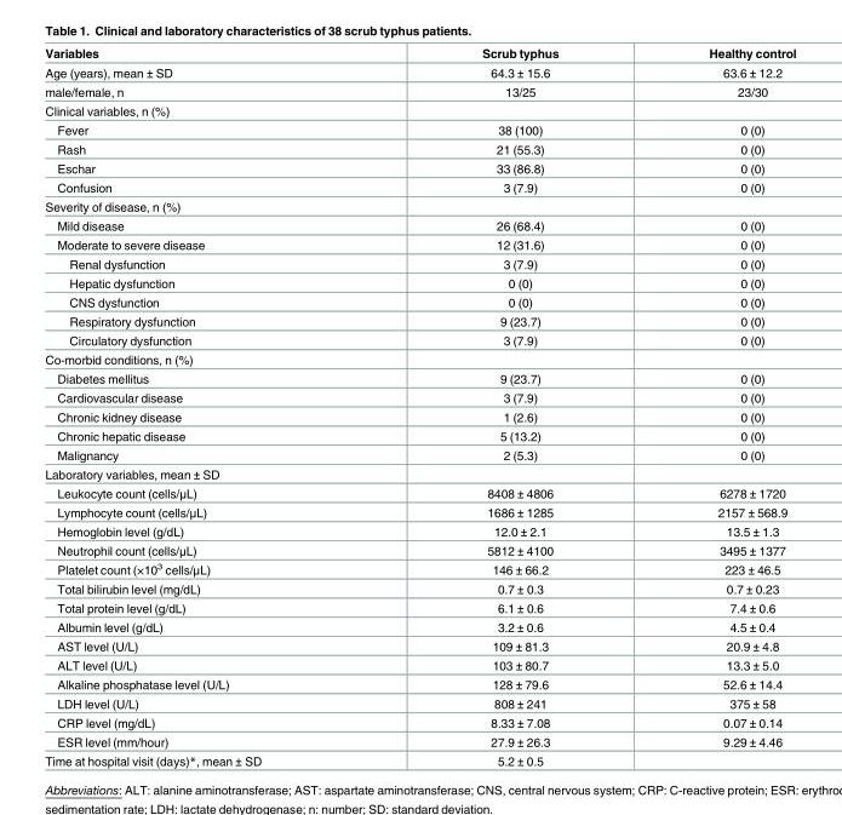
<table><thead><tr><td>Variables</td><td>Scrub typhus</td><td>Healthy control</td></tr></thead><tbody><tr><td>Age (years), mean ± SD</td><td>64.3 ± 15.6</td><td>63.6 ± 12.2</td></tr><tr><td>male/female, n</td><td>13/25</td><td>23/30</td></tr><tr><td colspan="3">Clinical variables, n (%)</td></tr><tr><td>Fever</td><td>38 (100)</td><td>0 (0)</td></tr><tr><td>Rash</td><td>21 (55.3)</td><td>0 (0)</td></tr><tr><td>Eschar</td><td>33 (86.8)</td><td>0 (0)</td></tr><tr><td>Confusion</td><td>3 (7.9)</td><td>0 (0)</td></tr><tr><td colspan="3">Severity of disease, n (%)</td></tr><tr><td>Mild disease</td><td>26 (68.4)</td><td>0 (0)</td></tr><tr><td>Moderate to severe disease</td><td>12 (31.6)</td><td>0 (0)</td></tr><tr><td>Renal dysfunction</td><td>3 (7.9)</td><td>0 (0)</td></tr><tr><td>Hepatic dysfunction</td><td>0 (0)</td><td>0 (0)</td></tr><tr><td>CNS dysfunction</td><td>0 (0)</td><td>0 (0)</td></tr><tr><td>Respiratory dysfunction</td><td>9 (23.7)</td><td>0 (0)</td></tr><tr><td>Circulatory dysfunction</td><td>3 (7.9)</td><td>0 (0)</td></tr><tr><td colspan="3">Co-morbid conditions, n (%)</td></tr><tr><td>Diabetes mellitus</td><td>9 (23.7)</td><td>0 (0)</td></tr><tr><td>Cardiovascular disease</td><td>3 (7.9)</td><td>0 (0)</td></tr><tr><td>Chronic kidney disease</td><td>1 (2.6)</td><td>0 (0)</td></tr><tr><td>Chronic hepatic disease</td><td>5 (13.2)</td><td>0 (0)</td></tr><tr><td>Malignancy</td><td>2 (5.3)</td><td>0 (0)</td></tr><tr><td colspan="3">Laboratory variables, mean ± SD</td></tr><tr><td>Leukocyte count (cells/μL)</td><td>8408 ± 4806</td><td>6278 ± 1720</td></tr><tr><td>Lymphocyte count (cells/μL)</td><td>1686 ± 1285</td><td>2157 ± 568.9</td></tr><tr><td>Hemoglobin level (g/dL)</td><td>12.0 ± 2.1</td><td>13.5 ± 1.3</td></tr><tr><td>Neutrophil count (cells/μL)</td><td>5812 ± 4100</td><td>3495 ± 1377</td></tr><tr><td>Platelet count (×10<sup>3</sup> cells/μL)</td><td>146 ± 66.2</td><td>223 ± 46.5</td></tr><tr><td>Total bilirubin level (mg/dL)</td><td>0.7 ± 0.3</td><td>0.7 ± 0.23</td></tr><tr><td>Total protein level (g/dL)</td><td>6.1 ± 0.6</td><td>7.4 ± 0.6</td></tr><tr><td>Albumin level (g/dL)</td><td>3.2 ± 0.6</td><td>4.5 ± 0.4</td></tr><tr><td>AST level (U/L)</td><td>109 ± 81.3</td><td>20.9 ± 4.8</td></tr><tr><td>ALT level (U/L)</td><td>103 ± 80.7</td><td>13.3 ± 5.0</td></tr><tr><td>Alkaline phosphatase level (U/L)</td><td>128 ± 79.6</td><td>52.6 ± 14.4</td></tr><tr><td>LDH level (U/L)</td><td>808 ± 241</td><td>375 ± 58</td></tr><tr><td>CRP level (mg/dL)</td><td>8.33 ± 7.08</td><td>0.07 ± 0.14</td></tr><tr><td>ESR level (mm/hour)</td><td>27.9 ± 26.3</td><td>9.29 ± 4.46</td></tr><tr><td>Time at hospital visit (days)*, mean ± SD</td><td>5.2 ± 0.5</td><td></td></tr></tbody></table>